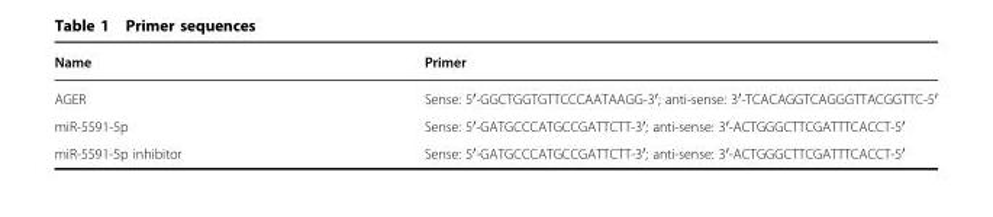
<table><thead><tr><td>Name</td><td>Primer</td></tr></thead><tbody><tr><td>AGER</td><td>Sense: 5′-GGCTGGTGTTCCCAATAAGG-3′; anti-sense: 3′-TCACAGGTCAGGGTTACGGTTC-5′</td></tr><tr><td>miR-5591-5p</td><td>Sense: 5′-GATGCCCATGCCGATTCTT-3′; anti-sense: 3′-ACTGGGCTTCGATTTCACCT-5′</td></tr><tr><td>miR-5591-5p inhibitor</td><td>Sense: 5′-GATGCCCATGCCGATTCTT-3′; anti-sense: 3′-ACTGGGCTTCGATTTCACCT-5′</td></tr></tbody></table>